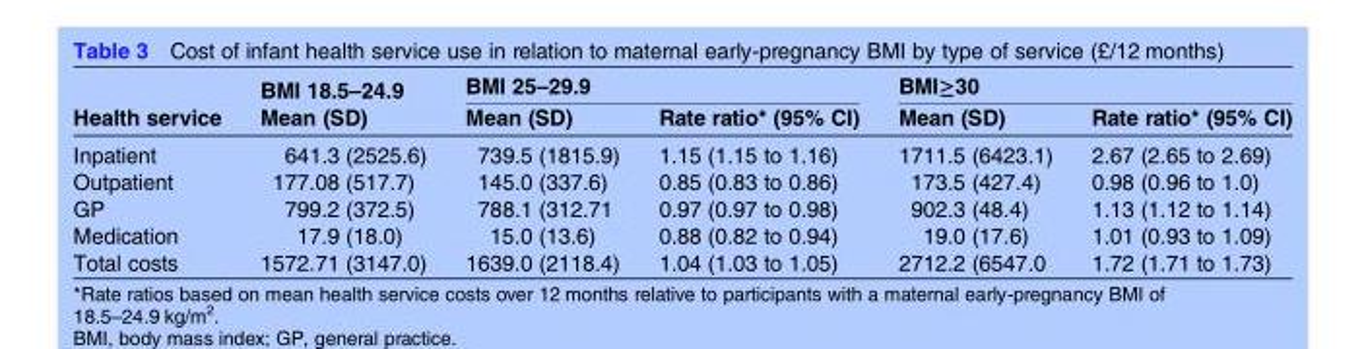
<table><thead><tr><td rowspan="2">Health service</td><td rowspan="2">BMI 18.5–24.9 Mean (SD)</td><td colspan="2">BMI 25–29.9</td><td colspan="2">BMI≥30</td></tr><tr><td>Mean (SD)</td><td>Rate ratio* (95% CI)</td><td>Mean (SD)</td><td>Rate ratio* (95% CI)</td></tr></thead><tbody><tr><td>Inpatient</td><td>641.3 (2525.6)</td><td>739.5 (1815.9)</td><td>1.15 (1.15 to 1.16)</td><td>1711.5 (6423.1)</td><td>2.67 (2.65 to 2.69)</td></tr><tr><td>Outpatient</td><td>177.08 (517.7)</td><td>145.0 (337.6)</td><td>0.85 (0.83 to 0.86)</td><td>173.5 (427.4)</td><td>0.98 (0.96 to 1.0)</td></tr><tr><td>GP</td><td>799.2 (372.5)</td><td>788.1 (312.71</td><td>0.97 (0.97 to 0.98)</td><td>902.3 (48.4)</td><td>1.13 (1.12 to 1.14)</td></tr><tr><td>Medication</td><td>17.9 (18.0)</td><td>15.0 (13.6)</td><td>0.88 (0.82 to 0.94)</td><td>19.0 (17.6)</td><td>1.01 (0.93 to 1.09)</td></tr><tr><td>Total costs</td><td>1572.71 (3147.0)</td><td>1639.0 (2118.4)</td><td>1.04 (1.03 to 1.05)</td><td>2712.2 (6547.0</td><td>1.72 (1.71 to 1.73)</td></tr></tbody></table>